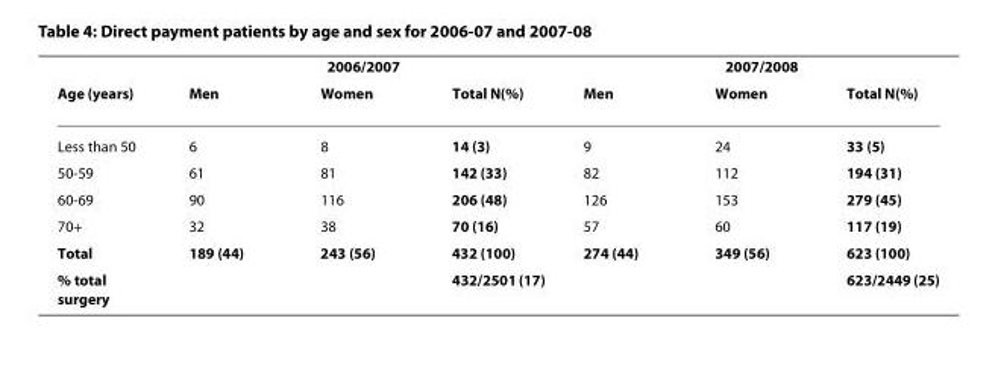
<table><thead><tr><td colspan="4">2006/2007</td><td colspan="3">2007/2008</td></tr><tr><td>Age (years)</td><td>Men</td><td>Women</td><td>Total N(%)</td><td>Men</td><td>Women</td><td>Total N(%)</td></tr></thead><tbody><tr><td>Less than 50</td><td>6</td><td>8</td><td>14 (3)</td><td>9</td><td>24</td><td>33 (5)</td></tr><tr><td>50-59</td><td>61</td><td>81</td><td>142 (33)</td><td>82</td><td>112</td><td>194 (31)</td></tr><tr><td>60-69</td><td>90</td><td>116</td><td>206 (48)</td><td>126</td><td>153</td><td>279 (45)</td></tr><tr><td>70+</td><td>32</td><td>38</td><td>70 (16)</td><td>57</td><td>60</td><td>117 (19)</td></tr><tr><td>Total</td><td>189 (44)</td><td>243 (56)</td><td>432 (100)</td><td>274 (44)</td><td>349 (56)</td><td>623 (100)</td></tr><tr><td>% total surgery</td><td></td><td></td><td>432/2501 (17)</td><td></td><td></td><td>623/2449 (25)</td></tr></tbody></table>